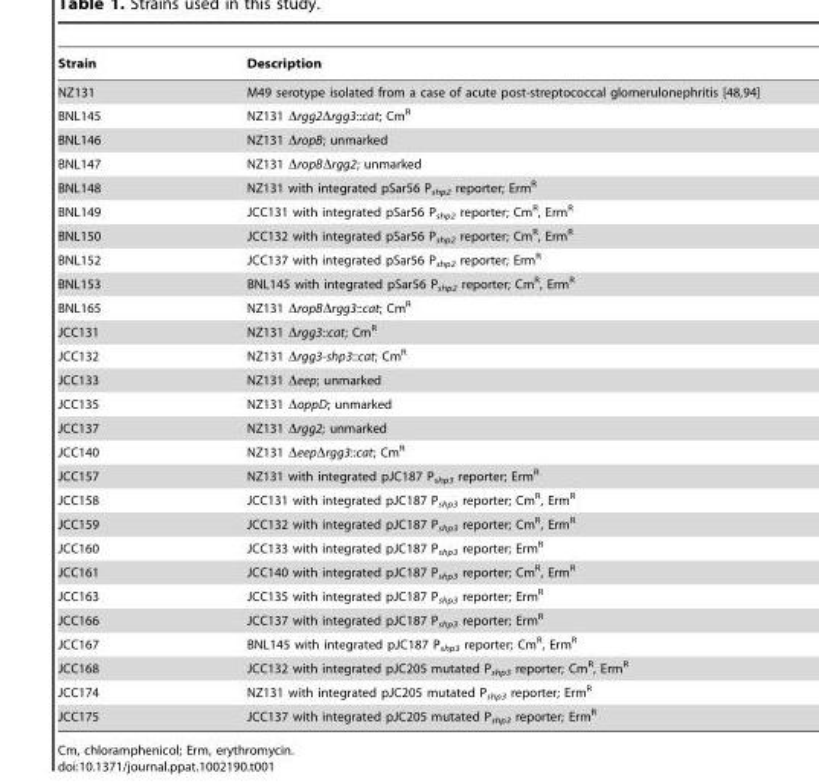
<table><thead><tr><td>Strain</td><td>Description</td></tr></thead><tbody><tr><td>NZ131</td><td>M49 serotype isolated from a case of acute post-streptococcal glomerulonephritis [48,94]</td></tr><tr><td>BNL145</td><td>NZ131 Δrgg2Δrgg3::cat; Cm<sup>R</sup></td></tr><tr><td>BNL146</td><td>NZ131 ΔropB; unmarked</td></tr><tr><td>BNL147</td><td>NZ131 ΔropBΔrgg2; unmarked</td></tr><tr><td>BNL148</td><td>NZ131 with integrated pSar56 P<sub>shp2</sub> reporter; Erm<sup>R</sup></td></tr><tr><td>BNL149</td><td>JCC131 with integrated pSar56 P<sub>shp2</sub> reporter; Cm<sup>R</sup>, Erm<sup>R</sup></td></tr><tr><td>BNL150</td><td>JCC132 with integrated pSar56 P<sub>shp2</sub> reporter; Cm<sup>R</sup>, Erm<sup>R</sup></td></tr><tr><td>BNL152</td><td>JCC137 with integrated pSar56 P<sub>shp2</sub> reporter; Erm<sup>R</sup></td></tr><tr><td>BNL153</td><td>BNL145 with integrated pSar56 P<sub>shp2</sub> reporter; Cm<sup>R</sup>, Erm<sup>R</sup></td></tr><tr><td>BNL165</td><td>NZ131 ΔropBΔrgg3::cat; Cm<sup>R</sup></td></tr><tr><td>JCC131</td><td>NZ131 Δrgg3::cat; Cm<sup>R</sup></td></tr><tr><td>JCC132</td><td>NZ131 Δrgg3-shp3::cat; Cm<sup>R</sup></td></tr><tr><td>JCC133</td><td>NZ131 Δeep; unmarked</td></tr><tr><td>JCC135</td><td>NZ131 ΔoppD; unmarked</td></tr><tr><td>JCC137</td><td>NZ131 Δrgg2; unmarked</td></tr><tr><td>JCC140</td><td>NZ131 ΔeepΔrgg3::cat; Cm<sup>R</sup></td></tr><tr><td>JCC157</td><td>NZ131 with integrated pJC187 P<sub>shp3</sub> reporter; Erm<sup>R</sup></td></tr><tr><td>JCC158</td><td>JCC131 with integrated pJC187 P<sub>shp3</sub> reporter; Cm<sup>R</sup>, Erm<sup>R</sup></td></tr><tr><td>JCC159</td><td>JCC132 with integrated pJC187 P<sub>shp3</sub> reporter; Cm<sup>R</sup>, Erm<sup>R</sup></td></tr><tr><td>JCC160</td><td>JCC133 with integrated pJC187 P<sub>shp3</sub> reporter; Erm<sup>R</sup></td></tr><tr><td>JCC161</td><td>JCC140 with integrated pJC187 P<sub>shp3</sub> reporter; Cm<sup>R</sup>, Erm<sup>R</sup></td></tr><tr><td>JCC163</td><td>JCC135 with integrated pJC187 P<sub>shp3</sub> reporter; Erm<sup>R</sup></td></tr><tr><td>JCC166</td><td>JCC137 with integrated pJC187 P<sub>shp3</sub> reporter; Erm<sup>R</sup></td></tr><tr><td>JCC167</td><td>BNL145 with integrated pJC187 P<sub>shp3</sub> reporter; Cm<sup>R</sup>, Erm<sup>R</sup></td></tr><tr><td>JCC168</td><td>JCC132 with integrated pJC205 mutated P<sub>shp3</sub> reporter; Cm<sup>R</sup>, Erm<sup>R</sup></td></tr><tr><td>JCC174</td><td>NZ131 with integrated pJC205 mutated P<sub>shp3</sub> reporter; Erm<sup>R</sup></td></tr><tr><td>JCC175</td><td>JCC137 with integrated pJC205 mutated P<sub>shp3</sub> reporter; Erm<sup>R</sup></td></tr></tbody></table>